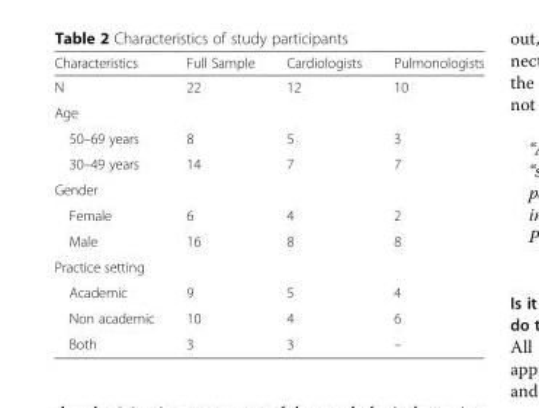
<table><thead><tr><td>Characteristics</td><td>Full Sample</td><td>Cardiologists</td><td>Pulmonologists</td></tr></thead><tbody><tr><td>N</td><td>22</td><td>12</td><td>10</td></tr><tr><td colspan="4">Age</td></tr><tr><td>50–69 years</td><td>8</td><td>5</td><td>3</td></tr><tr><td>30–49 years</td><td>14</td><td>7</td><td>7</td></tr><tr><td colspan="4">Gender</td></tr><tr><td>Female</td><td>6</td><td>4</td><td>2</td></tr><tr><td>Male</td><td>16</td><td>8</td><td>8</td></tr><tr><td colspan="4">Practice setting</td></tr><tr><td>Academic</td><td>9</td><td>5</td><td>4</td></tr><tr><td>Non academic</td><td>10</td><td>4</td><td>6</td></tr><tr><td>Both</td><td>3</td><td>3</td><td>–</td></tr></tbody></table>